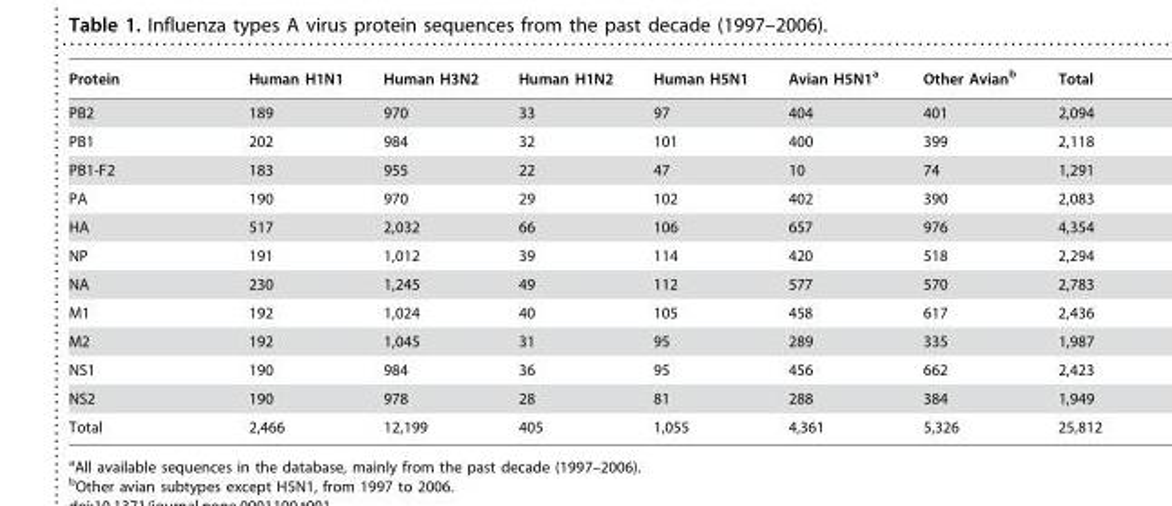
<table><thead><tr><td>Protein</td><td>Human H1N1</td><td>Human H3N2</td><td>Human H1N2</td><td>Human H5N1</td><td>Avian H5N1<sup>a</sup></td><td>Other Avian<sup>b</sup></td><td>Total</td></tr></thead><tbody><tr><td>PB2</td><td>189</td><td>970</td><td>33</td><td>97</td><td>404</td><td>401</td><td>2,094</td></tr><tr><td>PB1</td><td>202</td><td>984</td><td>32</td><td>101</td><td>400</td><td>399</td><td>2,118</td></tr><tr><td>PB1-F2</td><td>183</td><td>955</td><td>22</td><td>47</td><td>10</td><td>74</td><td>1,291</td></tr><tr><td>PA</td><td>190</td><td>970</td><td>29</td><td>102</td><td>402</td><td>390</td><td>2,083</td></tr><tr><td>HA</td><td>517</td><td>2,032</td><td>66</td><td>106</td><td>657</td><td>976</td><td>4,354</td></tr><tr><td>NP</td><td>191</td><td>1,012</td><td>39</td><td>114</td><td>420</td><td>518</td><td>2,294</td></tr><tr><td>NA</td><td>230</td><td>1,245</td><td>49</td><td>112</td><td>577</td><td>570</td><td>2,783</td></tr><tr><td>M1</td><td>192</td><td>1,024</td><td>40</td><td>105</td><td>458</td><td>617</td><td>2,436</td></tr><tr><td>M2</td><td>192</td><td>1,045</td><td>31</td><td>95</td><td>289</td><td>335</td><td>1,987</td></tr><tr><td>NS1</td><td>190</td><td>984</td><td>36</td><td>95</td><td>456</td><td>662</td><td>2,423</td></tr><tr><td>NS2</td><td>190</td><td>978</td><td>28</td><td>81</td><td>288</td><td>384</td><td>1,949</td></tr><tr><td>Total</td><td>2,466</td><td>12,199</td><td>405</td><td>1,055</td><td>4,361</td><td>5,326</td><td>25,812</td></tr></tbody></table>